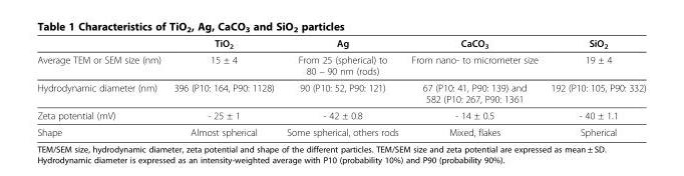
<table><thead><tr><td></td><td>TiO<sub>2</sub></td><td>Ag</td><td>CaCO<sub>3</sub></td><td>SiO<sub>2</sub></td></tr></thead><tbody><tr><td>Average TEM or SEM size (nm)</td><td>15 ± 4</td><td>From 25 (spherical) to 80 – 90 nm (rods)</td><td>From nano- to micrometer size</td><td>19 ± 4</td></tr><tr><td>Hydrodynamic diameter (nm)</td><td>396 (P10: 164, P90: 1128)</td><td>90 (P10: 52, P90: 121)</td><td>67 (P10: 41, P90: 139) and 582 (P10: 267, P90: 1361</td><td>192 (P10: 105, P90: 332)</td></tr><tr><td>Zeta potential (mV)</td><td>- 25 ± 1</td><td>- 42 ± 0.8</td><td>- 14 ± 0.5</td><td>- 40 ± 1.1</td></tr><tr><td>Shape</td><td>Almost spherical</td><td>Some spherical, others rods</td><td>Mixed, flakes</td><td>Spherical</td></tr></tbody></table>